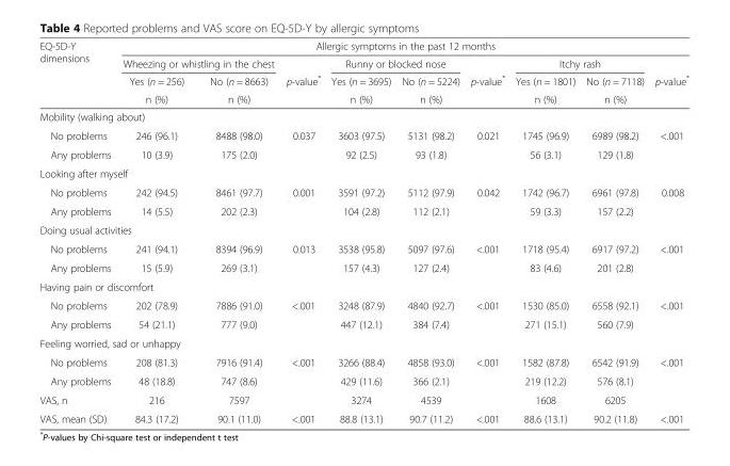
<table><thead><tr><td rowspan="4">EQ-5D-Y dimensions</td><td colspan="9">Allergic symptoms in the past 12 months</td></tr><tr><td colspan="2">Wheezing or whistling in the chest</td><td rowspan="3">p-value*</td><td colspan="2">Runny or blocked nose</td><td rowspan="3">p-value*</td><td colspan="2">Itchy rash</td><td rowspan="3">p-value*</td></tr><tr><td rowspan="2">Yes (n = 256) n (%)</td><td rowspan="2">No (n = 8663) n (%)</td><td rowspan="2">Yes (n = 3695) n (%)</td><td rowspan="2">No (n = 5224) n (%)</td><td rowspan="2">Yes (n = 1801) n (%)</td><td rowspan="2">No (n = 7118) n (%)</td></tr><tr></tr></thead><tbody><tr><td colspan="10">Mobility (walking about)</td></tr><tr><td>No problems</td><td>246 (96.1)</td><td>8488 (98.0)</td><td>0.037</td><td>3603 (97.5)</td><td>5131 (98.2)</td><td>0.021</td><td>1745 (96.9)</td><td>6989 (98.2)</td><td>&lt;.001</td></tr><tr><td>Any problems</td><td>10 (3.9)</td><td>175 (2.0)</td><td></td><td>92 (2.5)</td><td>93 (1.8)</td><td></td><td>56 (3.1)</td><td>129 (1.8)</td><td></td></tr><tr><td colspan="10">Looking after myself</td></tr><tr><td>No problems</td><td>242 (94.5)</td><td>8461 (97.7)</td><td>0.001</td><td>3591 (97.2)</td><td>5112 (97.9)</td><td>0.042</td><td>1742 (96.7)</td><td>6961 (97.8)</td><td>0.008</td></tr><tr><td>Any problems</td><td>14 (5.5)</td><td>202 (2.3)</td><td></td><td>104 (2.8)</td><td>112 (2.1)</td><td></td><td>59 (3.3)</td><td>157 (2.2)</td><td></td></tr><tr><td colspan="10">Doing usual activities</td></tr><tr><td>No problems</td><td>241 (94.1)</td><td>8394 (96.9)</td><td>0.013</td><td>3538 (95.8)</td><td>5097 (97.6)</td><td>&lt;.001</td><td>1718 (95.4)</td><td>6917 (97.2)</td><td>&lt;.001</td></tr><tr><td>Any problems</td><td>15 (5.9)</td><td>269 (3.1)</td><td></td><td>157 (4.3)</td><td>127 (2.4)</td><td></td><td>83 (4.6)</td><td>201 (2.8)</td><td></td></tr><tr><td colspan="10">Having pain or discomfort</td></tr><tr><td>No problems</td><td>202 (78.9)</td><td>7886 (91.0)</td><td>&lt;.001</td><td>3248 (87.9)</td><td>4840 (92.7)</td><td>&lt;.001</td><td>1530 (85.0)</td><td>6558 (92.1)</td><td>&lt;.001</td></tr><tr><td>Any problems</td><td>54 (21.1)</td><td>777 (9.0)</td><td></td><td>447 (12.1)</td><td>384 (7.4)</td><td></td><td>271 (15.1)</td><td>560 (7.9)</td><td></td></tr><tr><td colspan="10">Feeling worried, sad or unhappy</td></tr><tr><td>No problems</td><td>208 (81.3)</td><td>7916 (91.4)</td><td>&lt;.001</td><td>3266 (88.4)</td><td>4858 (93.0)</td><td>&lt;.001</td><td>1582 (87.8)</td><td>6542 (91.9)</td><td>&lt;.001</td></tr><tr><td>Any problems</td><td>48 (18.8)</td><td>747 (8.6)</td><td></td><td>429 (11.6)</td><td>366 (2.1)</td><td></td><td>219 (12.2)</td><td>576 (8.1)</td><td></td></tr><tr><td>VAS, n</td><td>216</td><td>7597</td><td></td><td>3274</td><td>4539</td><td></td><td>1608</td><td>6205</td><td></td></tr><tr><td>VAS, mean (SD)</td><td>84.3 (17.2)</td><td>90.1 (11.0)</td><td>&lt;.001</td><td>88.8 (13.1)</td><td>90.7 (11.2)</td><td>&lt;.001</td><td>88.6 (13.1)</td><td>90.2 (11.8)</td><td>&lt;.001</td></tr></tbody></table>